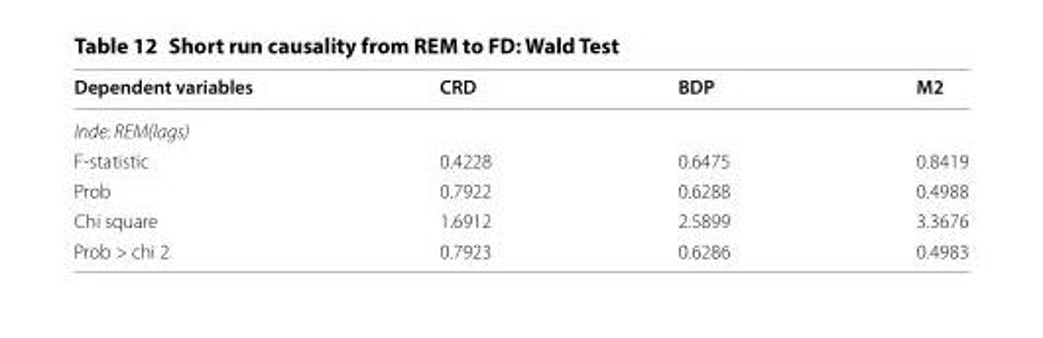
<table><thead><tr><td>Dependent variables</td><td>CRD</td><td>BDP</td><td>M2</td></tr></thead><tbody><tr><td colspan="4">Inde: REM(lags)</td></tr><tr><td>F-statistic</td><td>0.4228</td><td>0.6475</td><td>0.8419</td></tr><tr><td>Prob</td><td>0.7922</td><td>0.6288</td><td>0.4988</td></tr><tr><td>Chi square</td><td>1.6912</td><td>2.5899</td><td>3.3676</td></tr><tr><td>Prob &gt; chi 2</td><td>0.7923</td><td>0.6286</td><td>0.4983</td></tr></tbody></table>